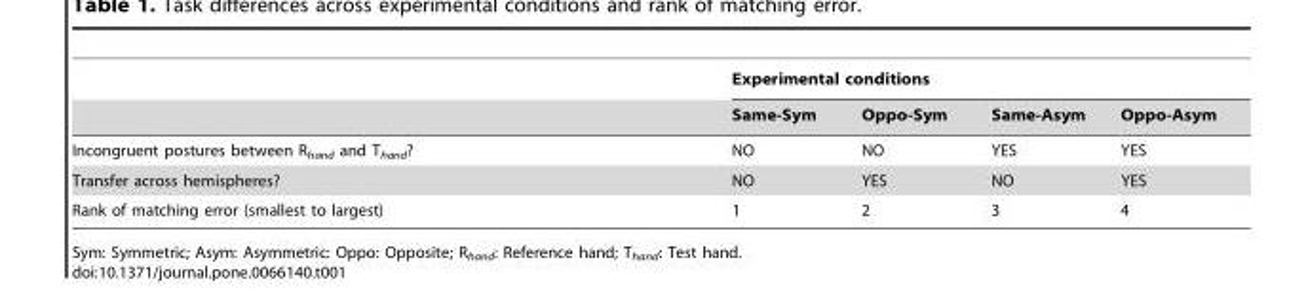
<table><thead><tr><td rowspan="2"></td><td colspan="4">Experimental conditions</td></tr><tr><td>Same-Sym</td><td>Oppo-Sym</td><td>Same-Asym</td><td>Oppo-Asym</td></tr></thead><tbody><tr><td>Incongruent postures between R<sub>hand</sub> and T<sub>hand</sub>?</td><td>NO</td><td>NO</td><td>YES</td><td>YES</td></tr><tr><td>Transfer across hemispheres?</td><td>NO</td><td>YES</td><td>NO</td><td>YES</td></tr><tr><td>Rank of matching error (smallest to largest)</td><td>1</td><td>2</td><td>3</td><td>4</td></tr></tbody></table>